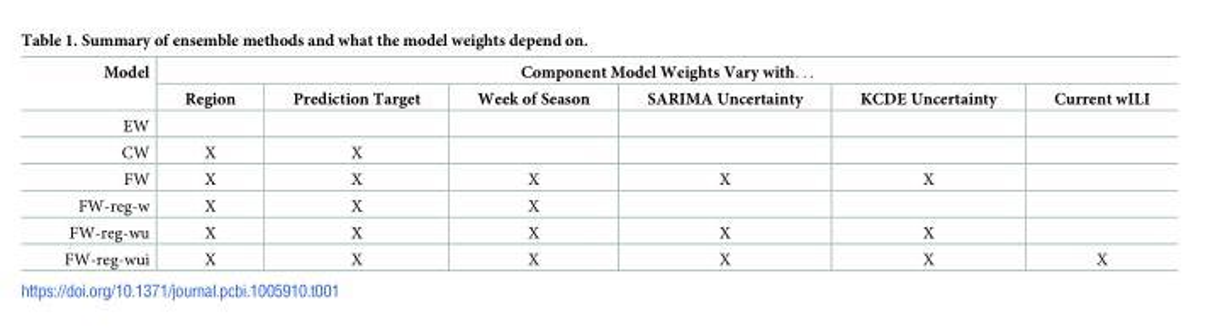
<table><thead><tr><td rowspan="2">Model</td><td colspan="6">Component Model Weights Vary with. . .</td></tr><tr><td>Region</td><td>Prediction Target</td><td>Week of Season</td><td>SARIMA Uncertainty</td><td>KCDE Uncertainty</td><td>Current wILI</td></tr></thead><tbody><tr><td colspan="7">EW</td></tr><tr><td>CW</td><td>X</td><td>X</td><td></td><td></td><td></td><td></td></tr><tr><td>FW</td><td>X</td><td>X</td><td>X</td><td>X</td><td>X</td><td></td></tr><tr><td>FW-reg-w</td><td>X</td><td>X</td><td>X</td><td></td><td></td><td></td></tr><tr><td>FW-reg-wu</td><td>X</td><td>X</td><td>X</td><td>X</td><td>X</td><td></td></tr><tr><td>FW-reg-wui</td><td>X</td><td>X</td><td>X</td><td>X</td><td>X</td><td>X</td></tr></tbody></table>